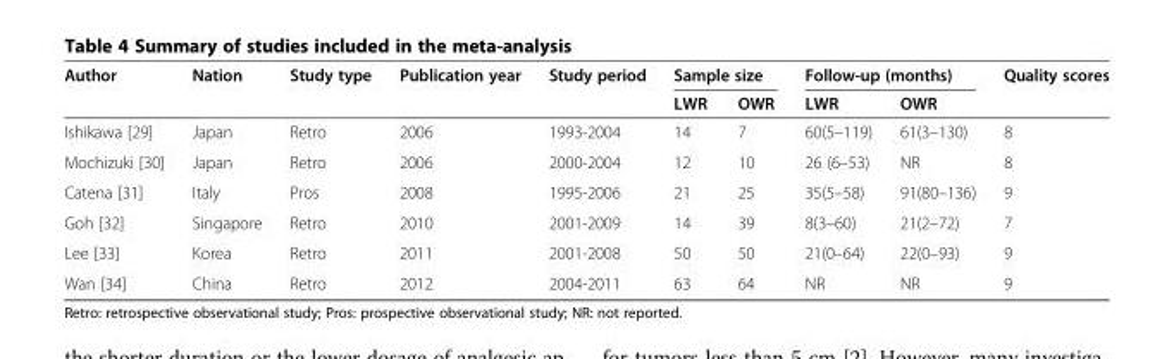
<table><thead><tr><td rowspan="2">Author</td><td rowspan="2">Nation</td><td rowspan="2">Study type</td><td rowspan="2">Publication year</td><td rowspan="2">Study period</td><td colspan="2">Sample size</td><td colspan="2">Follow-up (months)</td><td rowspan="2">Quality scores</td></tr><tr><td>LWR</td><td>OWR</td><td>LWR</td><td>OWR</td></tr></thead><tbody><tr><td>Ishikawa [29]</td><td>Japan</td><td>Retro</td><td>2006</td><td>1993-2004</td><td>14</td><td>7</td><td>60(5–119)</td><td>61(3–130)</td><td>8</td></tr><tr><td>Mochizuki [30]</td><td>Japan</td><td>Retro</td><td>2006</td><td>2000-2004</td><td>12</td><td>10</td><td>26 (6–53)</td><td>NR</td><td>8</td></tr><tr><td>Catena [31]</td><td>Italy</td><td>Pros</td><td>2008</td><td>1995-2006</td><td>21</td><td>25</td><td>35(5–58)</td><td>91(80–136)</td><td>9</td></tr><tr><td>Goh [32]</td><td>Singapore</td><td>Retro</td><td>2010</td><td>2001-2009</td><td>14</td><td>39</td><td>8(3–60)</td><td>21(2–72)</td><td>7</td></tr><tr><td>Lee [33]</td><td>Korea</td><td>Retro</td><td>2011</td><td>2001-2008</td><td>50</td><td>50</td><td>21(0–64)</td><td>22(0–93)</td><td>9</td></tr><tr><td>Wan [34]</td><td>China</td><td>Retro</td><td>2012</td><td>2004-2011</td><td>63</td><td>64</td><td>NR</td><td>NR</td><td>9</td></tr></tbody></table>